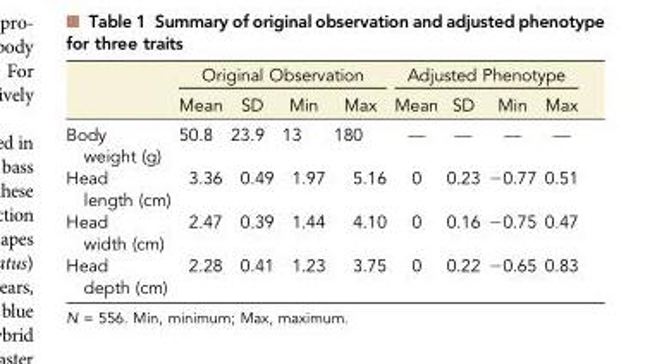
<table><thead><tr><td rowspan="2"></td><td colspan="4">Original Observation</td><td colspan="4">Adjusted Phenotype</td></tr><tr><td>Mean</td><td>SD</td><td>Min</td><td>Max</td><td>Mean</td><td>SD</td><td>Min</td><td>Max</td></tr></thead><tbody><tr><td>Body weight (g)</td><td>50.8</td><td>23.9</td><td>13</td><td>180</td><td>—</td><td>—</td><td>—</td><td>—</td></tr><tr><td>Head length (cm)</td><td>3.36</td><td>0.49</td><td>1.97</td><td>5.16</td><td>0</td><td>0.23</td><td>−0.77</td><td>0.51</td></tr><tr><td>Head width (cm)</td><td>2.47</td><td>0.39</td><td>1.44</td><td>4.10</td><td>0</td><td>0.16</td><td>−0.75</td><td>0.47</td></tr><tr><td>Head depth (cm)</td><td>2.28</td><td>0.41</td><td>1.23</td><td>3.75</td><td>0</td><td>0.22</td><td>−0.65</td><td>0.83</td></tr></tbody></table>